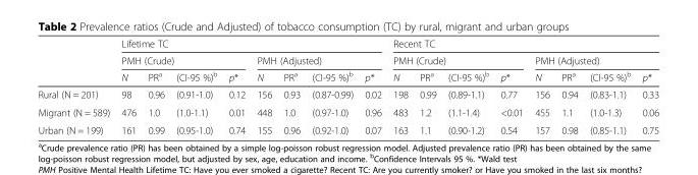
<table><thead><tr><td rowspan="3"></td><td colspan="8">Lifetime TC</td><td colspan="8">Recent TC</td></tr><tr><td colspan="4">PMH (Crude)</td><td colspan="4">PMH (Adjusted)</td><td colspan="4">PMH (Crude)</td><td colspan="4">PMH (Adjusted)</td></tr><tr><td>N</td><td>PR<sup>a</sup></td><td>(CI-95 %)<sup>b</sup></td><td>p*</td><td>N</td><td>PR<sup>a</sup></td><td>(CI-95 %)<sup>b</sup></td><td>p*</td><td>N</td><td>PR<sup>a</sup></td><td>(CI-95 %)<sup>b</sup></td><td>p*</td><td>N</td><td>PR<sup>a</sup></td><td>(CI-95 %)<sup>b</sup></td><td>p*</td></tr></thead><tbody><tr><td>Rural (N = 201)</td><td>98</td><td>0.96</td><td>(0.91-1.0)</td><td>0.12</td><td>156</td><td>0.93</td><td>(0.87-0.99)</td><td>0.02</td><td>198</td><td>0.99</td><td>(0.89-1.1)</td><td>0.77</td><td>156</td><td>0.94</td><td>(0.83-1.1)</td><td>0.33</td></tr><tr><td>Migrant (N = 589)</td><td>476</td><td>1.0</td><td>(1.0-1.1)</td><td>0.01</td><td>448</td><td>1.0</td><td>(0.97-1.0)</td><td>0.96</td><td>483</td><td>1.2</td><td>(1.1-1.4)</td><td>&lt;0.01</td><td>455</td><td>1.1</td><td>(1.0-1.3)</td><td>0.06</td></tr><tr><td>Urban (N = 199)</td><td>161</td><td>0.99</td><td>(0.95-1.0)</td><td>0.74</td><td>155</td><td>0.96</td><td>(0.92-1.0)</td><td>0.07</td><td>163</td><td>1.1</td><td>(0.90-1.2)</td><td>0.54</td><td>157</td><td>0.98</td><td>(0.85-1.1)</td><td>0.75</td></tr></tbody></table>